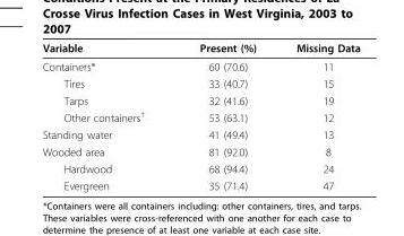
<table><thead><tr><td>Variable</td><td>Present (%)</td><td>Missing Data</td></tr></thead><tbody><tr><td>Containers*</td><td>60 (70.6)</td><td>11</td></tr><tr><td>Tires</td><td>33 (40.7)</td><td>15</td></tr><tr><td>Tarps</td><td>32 (41.6)</td><td>19</td></tr><tr><td>Other containers<sup>†</sup></td><td>53 (63.1)</td><td>12</td></tr><tr><td>Standing water</td><td>41 (49.4)</td><td>13</td></tr><tr><td>Wooded area</td><td>81 (92.0)</td><td>8</td></tr><tr><td>Hardwood</td><td>68 (94.4)</td><td>24</td></tr><tr><td>Evergreen</td><td>35 (71.4)</td><td>47</td></tr></tbody></table>